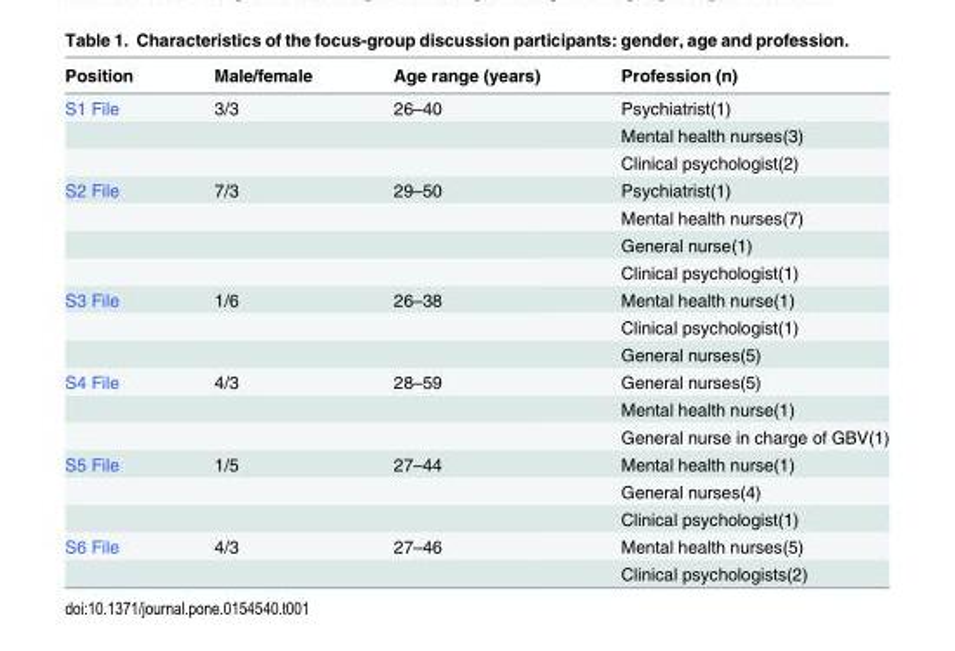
<table><thead><tr><td>Position</td><td>Male/female</td><td>Age range (years)</td><td>Profession (n)</td></tr></thead><tbody><tr><td rowspan="3">S1 File</td><td>3/3</td><td>26–40</td><td>Psychiatrist(1)</td></tr><tr><td></td><td></td><td>Mental health nurses(3)</td></tr><tr><td></td><td></td><td>Clinical psychologist(2)</td></tr><tr><td rowspan="4">S2 File</td><td>7/3</td><td>29–50</td><td>Psychiatrist(1)</td></tr><tr><td></td><td></td><td>Mental health nurses(7)</td></tr><tr><td></td><td></td><td>General nurse(1)</td></tr><tr><td></td><td></td><td>Clinical psychologist(1)</td></tr><tr><td rowspan="3">S3 File</td><td>1/6</td><td>26–38</td><td>Mental health nurse(1)</td></tr><tr><td></td><td></td><td>Clinical psychologist(1)</td></tr><tr><td></td><td></td><td>General nurses(5)</td></tr><tr><td rowspan="3">S4 File</td><td>4/3</td><td>28–59</td><td>General nurses(5)</td></tr><tr><td></td><td></td><td>Mental health nurse(1)</td></tr><tr><td></td><td></td><td>General nurse in charge of GBV(1)</td></tr><tr><td rowspan="3">S5 File</td><td>1/5</td><td>27–44</td><td>Mental health nurse(1)</td></tr><tr><td></td><td></td><td>General nurses(4)</td></tr><tr><td></td><td></td><td>Clinical psychologist(1)</td></tr><tr><td rowspan="2">S6 File</td><td>4/3</td><td>27–46</td><td>Mental health nurses(5)</td></tr><tr><td></td><td></td><td>Clinical psychologists(2)</td></tr></tbody></table>